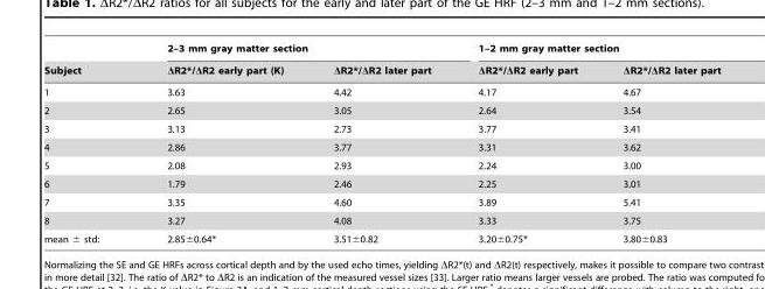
<table><thead><tr><td rowspan="2">Subject</td><td colspan="2">2–3 mm gray matter section</td><td colspan="2">1–2 mm gray matter section</td></tr><tr><td>ΔR2*/ΔR2 early part (K)</td><td>ΔR2*/ΔR2 later part</td><td>ΔR2*/ΔR2 early part</td><td>ΔR2*/ΔR2 later part</td></tr></thead><tbody><tr><td>1</td><td>3.63</td><td>4.42</td><td>4.17</td><td>4.67</td></tr><tr><td>2</td><td>2.65</td><td>3.05</td><td>2.64</td><td>3.54</td></tr><tr><td>3</td><td>3.13</td><td>2.73</td><td>3.77</td><td>3.41</td></tr><tr><td>4</td><td>2.86</td><td>3.77</td><td>3.31</td><td>3.62</td></tr><tr><td>5</td><td>2.08</td><td>2.93</td><td>2.24</td><td>3.00</td></tr><tr><td>6</td><td>1.79</td><td>2.46</td><td>2.25</td><td>3.01</td></tr><tr><td>7</td><td>3.35</td><td>4.60</td><td>3.89</td><td>5.41</td></tr><tr><td>8</td><td>3.27</td><td>4.08</td><td>3.33</td><td>3.75</td></tr><tr><td>mean ± std:</td><td>2.85±0.64*</td><td>3.51±0.82</td><td>3.20±0.75*</td><td>3.80±0.83</td></tr></tbody></table>